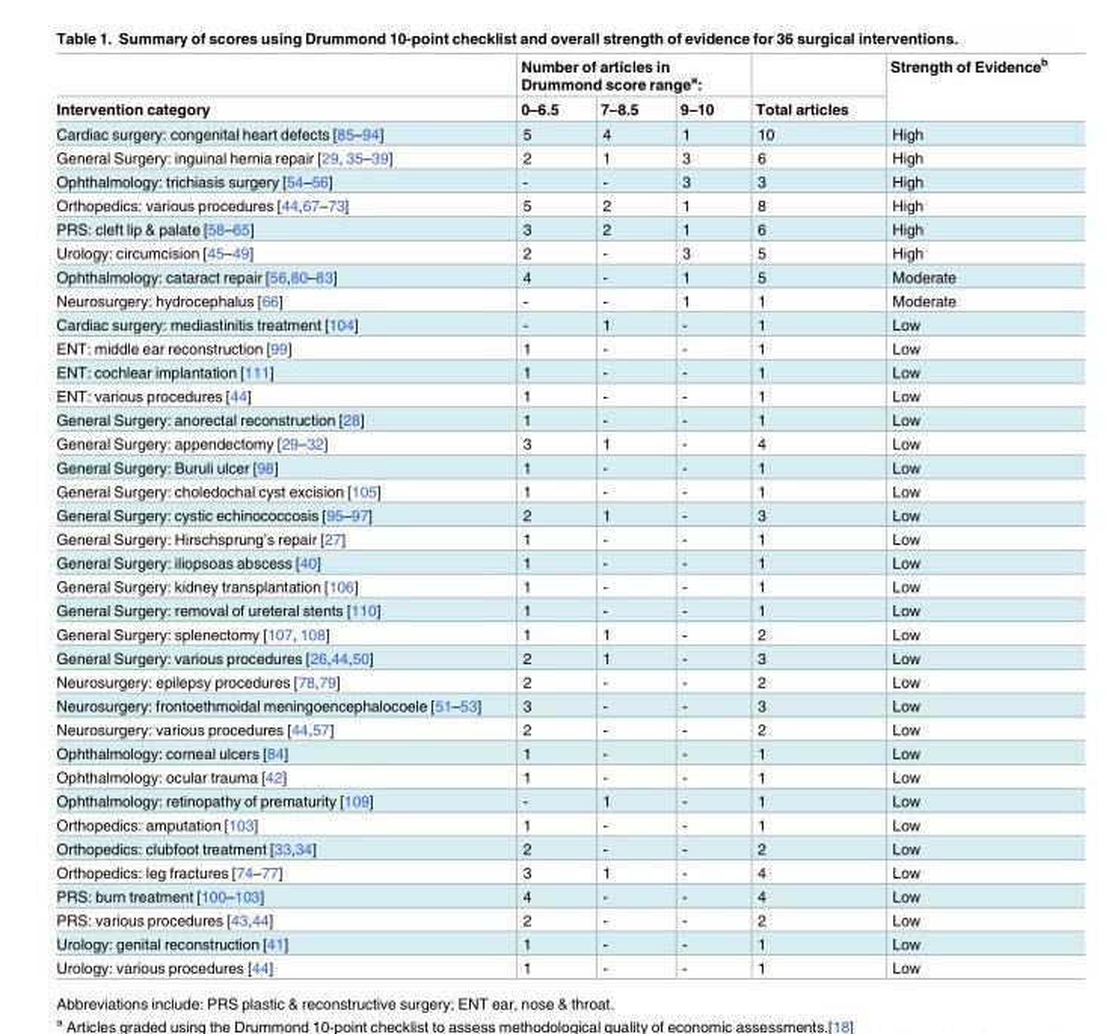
<table><thead><tr><td rowspan="2">Intervention category</td><td colspan="3">Number of articles in Drummond score range<sup>a</sup>:</td><td rowspan="2">Total articles</td><td rowspan="2">Strength of Evidence<sup>b</sup></td></tr><tr><td>0–6.5</td><td>7–8.5</td><td>9–10</td></tr></thead><tbody><tr><td>Cardiac surgery: congenital heart defects [85–94]</td><td>5</td><td>4</td><td>1</td><td>10</td><td>High</td></tr><tr><td>General Surgery: inguinal hernia repair [29, 35–39]</td><td>2</td><td>1</td><td>3</td><td>6</td><td>High</td></tr><tr><td>Ophthalmology: trichiasis surgery [54–56]</td><td>-</td><td>-</td><td>3</td><td>3</td><td>High</td></tr><tr><td>Orthopedics: various procedures [44,67–73]</td><td>5</td><td>2</td><td>1</td><td>8</td><td>High</td></tr><tr><td>PRS: cleft lip &amp; palate [58–65]</td><td>3</td><td>2</td><td>1</td><td>6</td><td>High</td></tr><tr><td>Urology: circumcision [45–49]</td><td>2</td><td>-</td><td>3</td><td>5</td><td>High</td></tr><tr><td>Ophthalmology: cataract repair [56,80–83]</td><td>4</td><td>-</td><td>1</td><td>5</td><td>Moderate</td></tr><tr><td>Neurosurgery: hydrocephalus [66]</td><td>-</td><td>-</td><td>1</td><td>1</td><td>Moderate</td></tr><tr><td>Cardiac surgery: mediastinitis treatment [104]</td><td>-</td><td>1</td><td>-</td><td>1</td><td>Low</td></tr><tr><td>ENT: middle ear reconstruction [99]</td><td>1</td><td>-</td><td>-</td><td>1</td><td>Low</td></tr><tr><td>ENT: cochlear implantation [111]</td><td>1</td><td>-</td><td>-</td><td>1</td><td>Low</td></tr><tr><td>ENT: various procedures [44]</td><td>1</td><td>-</td><td>-</td><td>1</td><td>Low</td></tr><tr><td>General Surgery: anorectal reconstruction [28]</td><td>1</td><td>-</td><td>-</td><td>1</td><td>Low</td></tr><tr><td>General Surgery: appendectomy [29–32]</td><td>3</td><td>1</td><td>-</td><td>4</td><td>Low</td></tr><tr><td>General Surgery: Buruli ulcer [98]</td><td>1</td><td>-</td><td>-</td><td>1</td><td>Low</td></tr><tr><td>General Surgery: choledochal cyst excision [105]</td><td>1</td><td>-</td><td>-</td><td>1</td><td>Low</td></tr><tr><td>General Surgery: cystic echinococcosis [95–97]</td><td>2</td><td>1</td><td>-</td><td>3</td><td>Low</td></tr><tr><td>General Surgery: Hirschsprung’s repair [27]</td><td>1</td><td>-</td><td>-</td><td>1</td><td>Low</td></tr><tr><td>General Surgery: iliopsoas abscess [40]</td><td>1</td><td>-</td><td>-</td><td>1</td><td>Low</td></tr><tr><td>General Surgery: kidney transplantation [106]</td><td>1</td><td>-</td><td>-</td><td>1</td><td>Low</td></tr><tr><td>General Surgery: removal of ureteral stents [110]</td><td>1</td><td>-</td><td>-</td><td>1</td><td>Low</td></tr><tr><td>General Surgery: splenectomy [107, 108]</td><td>1</td><td>1</td><td>-</td><td>2</td><td>Low</td></tr><tr><td>General Surgery: various procedures [26,44,50]</td><td>2</td><td>1</td><td>-</td><td>3</td><td>Low</td></tr><tr><td>Neurosurgery: epilepsy procedures [78,79]</td><td>2</td><td>-</td><td>-</td><td>2</td><td>Low</td></tr><tr><td>Neurosurgery: frontoethmoidal meningoencephalocoele [51–53]</td><td>3</td><td>-</td><td>-</td><td>3</td><td>Low</td></tr><tr><td>Neurosurgery: various procedures [44,57]</td><td>2</td><td>-</td><td>-</td><td>2</td><td>Low</td></tr><tr><td>Ophthalmology: corneal ulcers [84]</td><td>1</td><td>-</td><td>-</td><td>1</td><td>Low</td></tr><tr><td>Ophthalmology: ocular trauma [42]</td><td>1</td><td>-</td><td>-</td><td>1</td><td>Low</td></tr><tr><td>Ophthalmology: retinopathy of prematurity [109]</td><td>-</td><td>1</td><td>-</td><td>1</td><td>Low</td></tr><tr><td>Orthopedics: amputation [103]</td><td>1</td><td>-</td><td>-</td><td>1</td><td>Low</td></tr><tr><td>Orthopedics: clubfoot treatment [33,34]</td><td>2</td><td>-</td><td>-</td><td>2</td><td>Low</td></tr><tr><td>Orthopedics: leg fractures [74–77]</td><td>3</td><td>1</td><td>-</td><td>4</td><td>Low</td></tr><tr><td>PRS: burn treatment [100–103]</td><td>4</td><td>-</td><td>-</td><td>4</td><td>Low</td></tr><tr><td>PRS: various procedures [43,44]</td><td>2</td><td>-</td><td>-</td><td>2</td><td>Low</td></tr><tr><td>Urology: genital reconstruction [41]</td><td>1</td><td>-</td><td>-</td><td>1</td><td>Low</td></tr><tr><td>Urology: various procedures [44]</td><td>1</td><td>-</td><td>-</td><td>1</td><td>Low</td></tr></tbody></table>